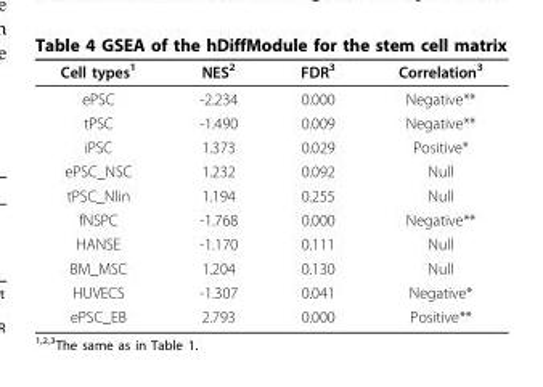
<table><thead><tr><td>Cell types<sup>1</sup></td><td>NES<sup>2</sup></td><td>FDR<sup>3</sup></td><td>Correlation<sup>3</sup></td></tr></thead><tbody><tr><td>ePSC</td><td>-2.234</td><td>0.000</td><td>Negative**</td></tr><tr><td>tPSC</td><td>-1.490</td><td>0.009</td><td>Negative**</td></tr><tr><td>iPSC</td><td>1.373</td><td>0.029</td><td>Positive*</td></tr><tr><td>ePSC_NSC</td><td>1.232</td><td>0.092</td><td>Null</td></tr><tr><td>tPSC_Nlin</td><td>1.194</td><td>0.255</td><td>Null</td></tr><tr><td>fNSPC</td><td>-1.768</td><td>0.000</td><td>Negative**</td></tr><tr><td>HANSE</td><td>-1.170</td><td>0.111</td><td>Null</td></tr><tr><td>BM_MSC</td><td>1.204</td><td>0.130</td><td>Null</td></tr><tr><td>HUVECS</td><td>-1.307</td><td>0.041</td><td>Negative*</td></tr><tr><td>ePSC_EB</td><td>2.793</td><td>0.000</td><td>Positive**</td></tr></tbody></table>